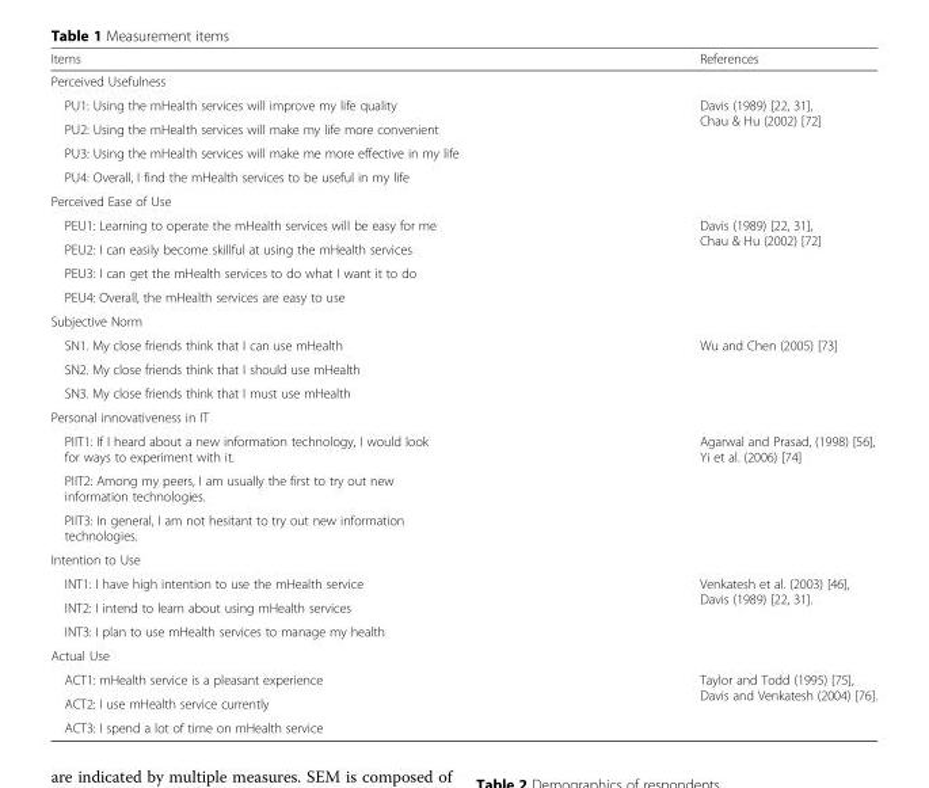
<table><thead><tr><td>Items</td><td>References</td></tr></thead><tbody><tr><td colspan="2">Perceived Usefulness</td></tr><tr><td>PU1: Using the mHealth services will improve my life quality</td><td rowspan="4">Davis (1989) [22, 31], Chau &amp; Hu (2002) [72]</td></tr><tr><td>PU2: Using the mHealth services will make my life more convenient</td></tr><tr><td>PU3: Using the mHealth services will make me more effective in my life</td></tr><tr><td>PU4: Overall, I find the mHealth services to be useful in my life</td></tr><tr><td colspan="2">Perceived Ease of Use</td></tr><tr><td>PEU1: Learning to operate the mHealth services will be easy for me</td><td rowspan="4">Davis (1989) [22, 31], Chau &amp; Hu (2002) [72]</td></tr><tr><td>PEU2: I can easily become skillful at using the mHealth services</td></tr><tr><td>PEU3: I can get the mHealth services to do what I want it to do</td></tr><tr><td>PEU4: Overall, the mHealth services are easy to use</td></tr><tr><td colspan="2">Subjective Norm</td></tr><tr><td>SN1. My close friends think that I can use mHealth</td><td rowspan="3">Wu and Chen (2005) [73]</td></tr><tr><td>SN2. My close friends think that I should use mHealth</td></tr><tr><td>SN3. My close friends think that I must use mHealth</td></tr><tr><td colspan="2">Personal innovativeness in IT</td></tr><tr><td>PIIT1: If I heard about a new information technology, I would look for ways to experiment with it.</td><td rowspan="3">Agarwal and Prasad, (1998) [56], Yi et al. (2006) [74]</td></tr><tr><td>PIIT2: Among my peers, I am usually the first to try out new information technologies.</td></tr><tr><td>PIIT3: In general, I am not hesitant to try out new information technologies.</td></tr><tr><td colspan="2">Intention to Use</td></tr><tr><td>INT1: I have high intention to use the mHealth service</td><td rowspan="3">Venkatesh et al. (2003) [46], Davis (1989) [22, 31].</td></tr><tr><td>INT2: I intend to learn about using mHealth services</td></tr><tr><td>INT3: I plan to use mHealth services to manage my health</td></tr><tr><td colspan="2">Actual Use</td></tr><tr><td>ACT1: mHealth service is a pleasant experience</td><td rowspan="3">Taylor and Todd (1995) [75], Davis and Venkatesh (2004) [76].</td></tr><tr><td>ACT2: I use mHealth service currently</td></tr><tr><td>ACT3: I spend a lot of time on mHealth service</td></tr></tbody></table>